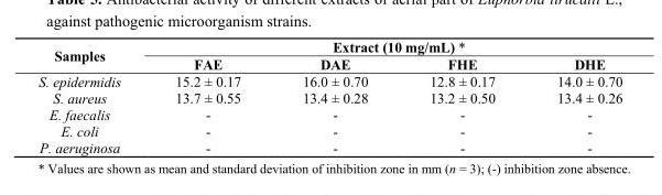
<table><thead><tr><td rowspan="2">Samples</td><td colspan="4">Extract (10 mg/mL) *</td></tr><tr><td>FAE</td><td>DAE</td><td>FHE</td><td>DHE</td></tr></thead><tbody><tr><td>S. epidermidis</td><td>15.2 ± 0.17</td><td>16.0 ± 0.70</td><td>12.8 ± 0.17</td><td>14.0 ± 0.70</td></tr><tr><td>S. aureus</td><td>13.7 ± 0.55</td><td>13.4 ± 0.28</td><td>13.2 ± 0.50</td><td>13.4 ± 0.26</td></tr><tr><td>E. faecalis</td><td>-</td><td>-</td><td>-</td><td>-</td></tr><tr><td>E. coli</td><td>-</td><td>-</td><td>-</td><td>-</td></tr><tr><td>P. aeruginosa</td><td>-</td><td>-</td><td>-</td><td>-</td></tr></tbody></table>